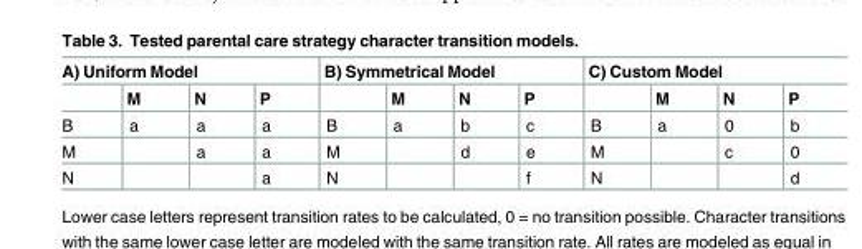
<table><thead><tr><td colspan="4">A) Uniform Model</td><td colspan="4">B) Symmetrical Model</td><td colspan="4">C) Custom Model</td></tr><tr><td></td><td>M</td><td>N</td><td>P</td><td></td><td>M</td><td>N</td><td>P</td><td></td><td>M</td><td>N</td><td>P</td></tr></thead><tbody><tr><td>B</td><td>a</td><td>a</td><td>a</td><td>B</td><td>a</td><td>b</td><td>c</td><td>B</td><td>a</td><td>0</td><td>b</td></tr><tr><td>M</td><td></td><td>a</td><td>a</td><td>M</td><td></td><td>d</td><td>e</td><td>M</td><td></td><td>c</td><td>0</td></tr><tr><td>N</td><td></td><td></td><td>a</td><td>N</td><td></td><td></td><td>f</td><td>N</td><td></td><td></td><td>d</td></tr></tbody></table>